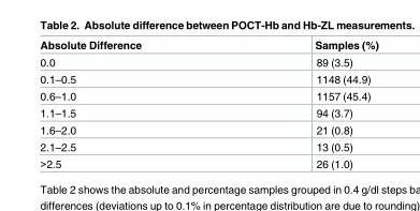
<table><thead><tr><td>Absolute Difference</td><td>Samples (%)</td></tr></thead><tbody><tr><td>0.0</td><td>89 (3.5)</td></tr><tr><td>0.1–0.5</td><td>1148 (44.9)</td></tr><tr><td>0.6–1.0</td><td>1157 (45.4)</td></tr><tr><td>1.1–1.5</td><td>94 (3.7)</td></tr><tr><td>1.6–2.0</td><td>21 (0.8)</td></tr><tr><td>2.1–2.5</td><td>13 (0.5)</td></tr><tr><td>&gt;2.5</td><td>26 (1.0)</td></tr></tbody></table>